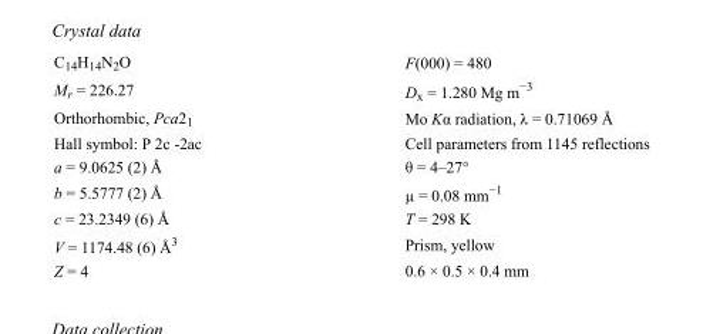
<table><tbody><tr><td>C<sub>14</sub>H<sub>14</sub>N<sub>2</sub>O</td><td>F(000) = 480</td></tr><tr><td>M<sub>r</sub> = 226.27</td><td>D<sub>x</sub> = 1.280 Mg m<sup>−3</sup></td></tr><tr><td>Orthorhombic, Pca2<sub>1</sub></td><td>Mo Kα radiation, λ = 0.71069 Å</td></tr><tr><td>Hall symbol: P 2c -2ac</td><td>Cell parameters from 1145 reflections</td></tr><tr><td>a = 9.0625 (2) Å</td><td>θ = 4–27°</td></tr><tr><td>b = 5.5777 (2) Å</td><td>µ = 0.08 mm<sup>−1</sup></td></tr><tr><td>c = 23.2349 (6) Å</td><td>T = 298 K</td></tr><tr><td>V = 1174.48 (6) Å<sup>3</sup></td><td>Prism, yellow</td></tr><tr><td>Z = 4</td><td>0.6 × 0.5 × 0.4 mm</td></tr></tbody></table>